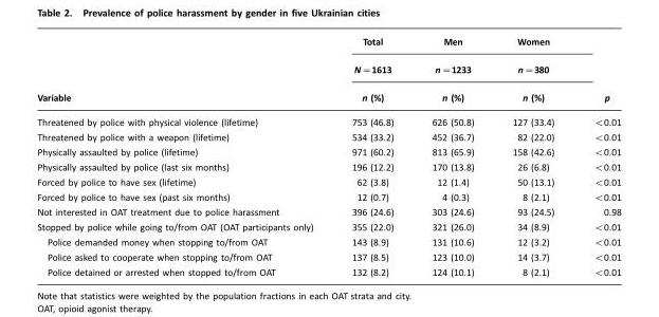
<table><thead><tr><td rowspan="3">Variable</td><td rowspan="3">Total N=1613 n (%)</td><td rowspan="3">Men n=1233 n (%)</td><td rowspan="3">Women n=380 n (%)</td><td rowspan="3">p</td></tr><tr></tr><tr></tr></thead><tbody><tr><td>Threatened by police with physical violence (lifetime)</td><td>753 (46.8)</td><td>626 (50.8)</td><td>127 (33.4)</td><td>&lt;0.01</td></tr><tr><td>Threatened by police with a weapon (lifetime)</td><td>534 (33.2)</td><td>452 (36.7)</td><td>82 (22.0)</td><td>&lt;0.01</td></tr><tr><td>Physically assaulted by police (lifetime)</td><td>971 (60.2)</td><td>813 (65.9)</td><td>158 (42.6)</td><td>&lt;0.01</td></tr><tr><td>Physically assaulted by police (last six months)</td><td>196 (12.2)</td><td>170 (13.8)</td><td>26 (6.8)</td><td>&lt;0.01</td></tr><tr><td>Forced by police to have sex (lifetime)</td><td>62 (3.8)</td><td>12 (1.4)</td><td>50 (13.1)</td><td>&lt;0.01</td></tr><tr><td>Forced by police to have sex (past six months)</td><td>12 (0.7)</td><td>4 (0.3)</td><td>8 (2.1)</td><td>&lt;0.01</td></tr><tr><td>Not interested in OAT treatment due to police harassment</td><td>396 (24.6)</td><td>303 (24.6)</td><td>93 (24.5)</td><td>0.98</td></tr><tr><td>Stopped by police while going to/from OAT (OAT participants only)</td><td>355 (22.0)</td><td>321 (26.0)</td><td>34 (8.9)</td><td>&lt;0.01</td></tr><tr><td>Police demanded money when stopping to/from OAT</td><td>143 (8.9)</td><td>131 (10.6)</td><td>12 (3.2)</td><td>&lt;0.01</td></tr><tr><td>Police asked to cooperate when stopping to/from OAT</td><td>137 (8.5)</td><td>123 (10.0)</td><td>14 (3.7)</td><td>&lt;0.01</td></tr><tr><td>Police detained or arrested when stopped to/from OAT</td><td>132 (8.2)</td><td>124 (10.1)</td><td>8 (2.1)</td><td>&lt;0.01</td></tr></tbody></table>